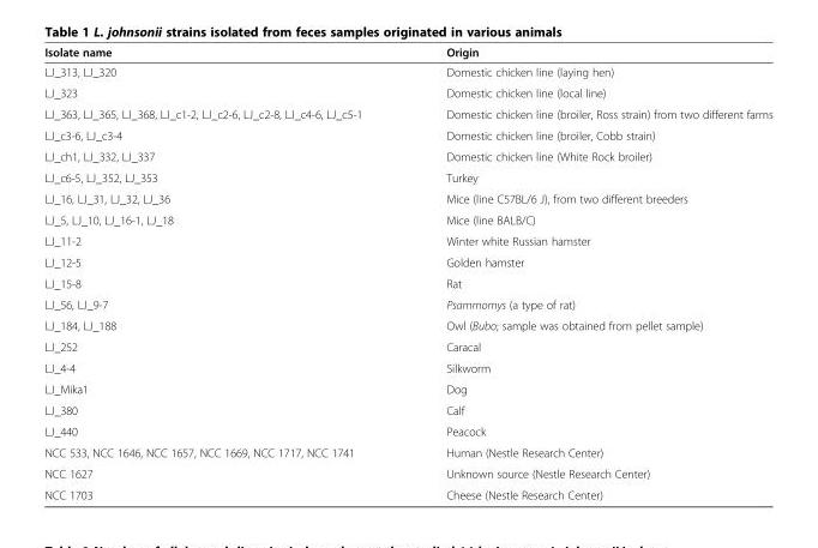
<table><thead><tr><td>Isolate name</td><td>Origin</td></tr></thead><tbody><tr><td>LJ_313, LJ_320</td><td>Domestic chicken line (laying hen)</td></tr><tr><td>LJ_323</td><td>Domestic chicken line (local line)</td></tr><tr><td>LJ_363, LJ_365, LJ_368, LJ_c1-2, LJ_c2-6, LJ_c2-8, LJ_c4-6, LJ_c5-1</td><td>Domestic chicken line (broiler, Ross strain) from two different farms</td></tr><tr><td>LJ_c3-6, LJ_c3-4</td><td>Domestic chicken line (broiler, Cobb strain)</td></tr><tr><td>LJ_ch1, LJ_332, LJ_337</td><td>Domestic chicken line (White Rock broiler)</td></tr><tr><td>LJ_c6-5, LJ_352, LJ_353</td><td>Turkey</td></tr><tr><td>LJ_16, LJ_31, LJ_32, LJ_36</td><td>Mice (line C57BL/6 J), from two different breeders</td></tr><tr><td>LJ_5, LJ_10, LJ_16-1, LJ_18</td><td>Mice (line BALB/C)</td></tr><tr><td>LJ_11-2</td><td>Winter white Russian hamster</td></tr><tr><td>LJ_12-5</td><td>Golden hamster</td></tr><tr><td>LJ_15-8</td><td>Rat</td></tr><tr><td>LJ_56, LJ_9-7</td><td>Psammomys (a type of rat)</td></tr><tr><td>LJ_184, LJ_188</td><td>Owl (Bubo; sample was obtained from pellet sample)</td></tr><tr><td>LJ_252</td><td>Caracal</td></tr><tr><td>LJ_4-4</td><td>Silkworm</td></tr><tr><td>LJ_Mika1</td><td>Dog</td></tr><tr><td>LJ_380</td><td>Calf</td></tr><tr><td>LJ_440</td><td>Peacock</td></tr><tr><td>NCC 533, NCC 1646, NCC 1657, NCC 1669, NCC 1717, NCC 1741</td><td>Human (Nestle Research Center)</td></tr><tr><td>NCC 1627</td><td>Unknown source (Nestle Research Center)</td></tr><tr><td>NCC 1703</td><td>Cheese (Nestle Research Center)</td></tr></tbody></table>